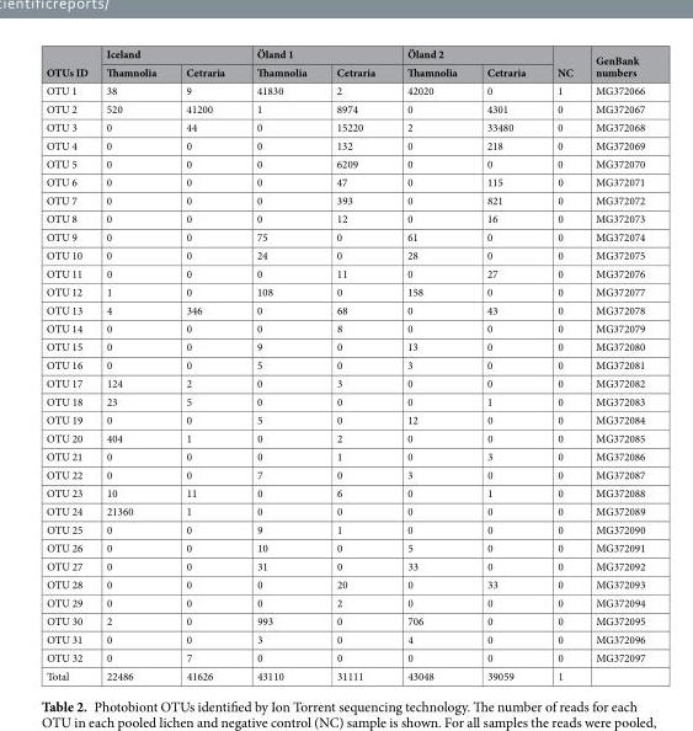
<table><thead><tr><td rowspan="2">OTUs ID</td><td colspan="2">Iceland</td><td colspan="2">Öland 1</td><td colspan="2">Öland 2</td><td rowspan="2">NC</td><td rowspan="2">GenBank numbers</td></tr><tr><td>Thamnolia</td><td>Cetraria</td><td>Thamnolia</td><td>Cetraria</td><td>Thamnolia</td><td>Cetraria</td></tr></thead><tbody><tr><td>OTU 1</td><td>38</td><td>9</td><td>41830</td><td>2</td><td>42020</td><td>0</td><td>1</td><td>MG372066</td></tr><tr><td>OTU 2</td><td>520</td><td>41200</td><td>1</td><td>8974</td><td>0</td><td>4301</td><td>0</td><td>MG372067</td></tr><tr><td>OTU 3</td><td>0</td><td>44</td><td>0</td><td>15220</td><td>2</td><td>33480</td><td>0</td><td>MG372068</td></tr><tr><td>OTU 4</td><td>0</td><td>0</td><td>0</td><td>132</td><td>0</td><td>218</td><td>0</td><td>MG372069</td></tr><tr><td>OTU 5</td><td>0</td><td>0</td><td>0</td><td>6209</td><td>0</td><td>0</td><td>0</td><td>MG372070</td></tr><tr><td>OTU 6</td><td>0</td><td>0</td><td>0</td><td>47</td><td>0</td><td>115</td><td>0</td><td>MG372071</td></tr><tr><td>OTU 7</td><td>0</td><td>0</td><td>0</td><td>393</td><td>0</td><td>821</td><td>0</td><td>MG372072</td></tr><tr><td>OTU 8</td><td>0</td><td>0</td><td>0</td><td>12</td><td>0</td><td>16</td><td>0</td><td>MG372073</td></tr><tr><td>OTU 9</td><td>0</td><td>0</td><td>75</td><td>0</td><td>61</td><td>0</td><td>0</td><td>MG372074</td></tr><tr><td>OTU 10</td><td>0</td><td>0</td><td>24</td><td>0</td><td>28</td><td>0</td><td>0</td><td>MG372075</td></tr><tr><td>OTU 11</td><td>0</td><td>0</td><td>0</td><td>11</td><td>0</td><td>27</td><td>0</td><td>MG372076</td></tr><tr><td>OTU 12</td><td>1</td><td>0</td><td>108</td><td>0</td><td>158</td><td>0</td><td>0</td><td>MG372077</td></tr><tr><td>OTU 13</td><td>4</td><td>346</td><td>0</td><td>68</td><td>0</td><td>43</td><td>0</td><td>MG372078</td></tr><tr><td>OTU 14</td><td>0</td><td>0</td><td>0</td><td>8</td><td>0</td><td>0</td><td>0</td><td>MG372079</td></tr><tr><td>OTU 15</td><td>0</td><td>0</td><td>9</td><td>0</td><td>13</td><td>0</td><td>0</td><td>MG372080</td></tr><tr><td>OTU 16</td><td>0</td><td>0</td><td>5</td><td>0</td><td>3</td><td>0</td><td>0</td><td>MG372081</td></tr><tr><td>OTU 17</td><td>124</td><td>2</td><td>0</td><td>3</td><td>0</td><td>0</td><td>0</td><td>MG372082</td></tr><tr><td>OTU 18</td><td>23</td><td>5</td><td>0</td><td>0</td><td>0</td><td>1</td><td>0</td><td>MG372083</td></tr><tr><td>OTU 19</td><td>0</td><td>0</td><td>5</td><td>0</td><td>12</td><td>0</td><td>0</td><td>MG372084</td></tr><tr><td>OTU 20</td><td>404</td><td>1</td><td>0</td><td>2</td><td>0</td><td>0</td><td>0</td><td>MG372085</td></tr><tr><td>OTU 21</td><td>0</td><td>0</td><td>0</td><td>1</td><td>0</td><td>3</td><td>0</td><td>MG372086</td></tr><tr><td>OTU 22</td><td>0</td><td>0</td><td>7</td><td>0</td><td>3</td><td>0</td><td>0</td><td>MG372087</td></tr><tr><td>OTU 23</td><td>10</td><td>11</td><td>0</td><td>6</td><td>0</td><td>1</td><td>0</td><td>MG372088</td></tr><tr><td>OTU 24</td><td>21360</td><td>1</td><td>0</td><td>0</td><td>0</td><td>0</td><td>0</td><td>MG372089</td></tr><tr><td>OTU 25</td><td>0</td><td>0</td><td>9</td><td>1</td><td>0</td><td>0</td><td>0</td><td>MG372090</td></tr><tr><td>OTU 26</td><td>0</td><td>0</td><td>10</td><td>0</td><td>5</td><td>0</td><td>0</td><td>MG372091</td></tr><tr><td>OTU 27</td><td>0</td><td>0</td><td>31</td><td>0</td><td>33</td><td>0</td><td>0</td><td>MG372092</td></tr><tr><td>OTU 28</td><td>0</td><td>0</td><td>0</td><td>20</td><td>0</td><td>33</td><td>0</td><td>MG372093</td></tr><tr><td>OTU 29</td><td>0</td><td>0</td><td>0</td><td>2</td><td>0</td><td>0</td><td>0</td><td>MG372094</td></tr><tr><td>OTU 30</td><td>2</td><td>0</td><td>993</td><td>0</td><td>706</td><td>0</td><td>0</td><td>MG372095</td></tr><tr><td>OTU 31</td><td>0</td><td>0</td><td>3</td><td>0</td><td>4</td><td>0</td><td>0</td><td>MG372096</td></tr><tr><td>OTU 32</td><td>0</td><td>7</td><td>0</td><td>0</td><td>0</td><td>0</td><td>0</td><td>MG372097</td></tr><tr><td>Total</td><td>22486</td><td>41626</td><td>43110</td><td>31111</td><td>43048</td><td>39059</td><td>1</td><td></td></tr></tbody></table>